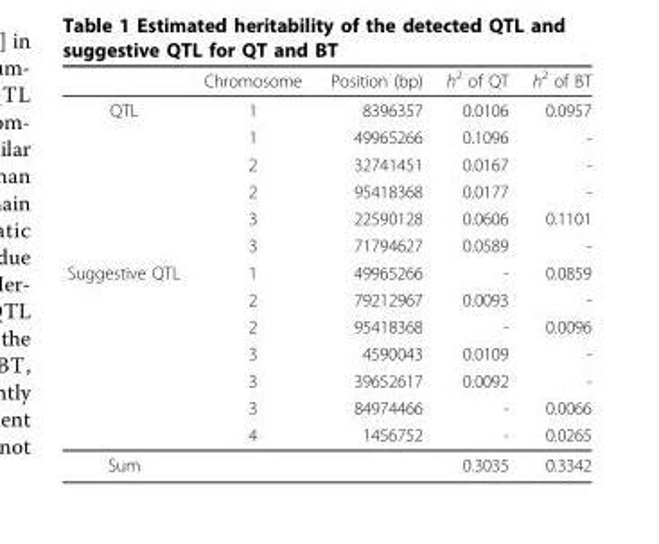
<table><thead><tr><td></td><td>Chromosome</td><td>Position (bp)</td><td>h<sup>2</sup> of QT</td><td>h<sup>2</sup> of BT</td></tr></thead><tbody><tr><td rowspan="6">QTL</td><td>1</td><td>8396357</td><td>0.0106</td><td>0.0957</td></tr><tr><td>1</td><td>49965266</td><td>0.1096</td><td>-</td></tr><tr><td>2</td><td>32741451</td><td>0.0167</td><td>-</td></tr><tr><td>2</td><td>95418368</td><td>0.0177</td><td>-</td></tr><tr><td>3</td><td>22590128</td><td>0.0606</td><td>0.1101</td></tr><tr><td>3</td><td>71794627</td><td>0.0589</td><td>-</td></tr><tr><td rowspan="7">Suggestive QTL</td><td>1</td><td>49965266</td><td>-</td><td>0.0859</td></tr><tr><td>2</td><td>79212967</td><td>0.0093</td><td>-</td></tr><tr><td>2</td><td>95418368</td><td>-</td><td>0.0096</td></tr><tr><td>3</td><td>4590043</td><td>0.0109</td><td>-</td></tr><tr><td>3</td><td>39652617</td><td>0.0092</td><td>-</td></tr><tr><td>3</td><td>84974466</td><td>-</td><td>0.0066</td></tr><tr><td>4</td><td>1456752</td><td>-</td><td>0.0265</td></tr><tr><td>Sum</td><td></td><td></td><td>0.3035</td><td>0.3342</td></tr></tbody></table>